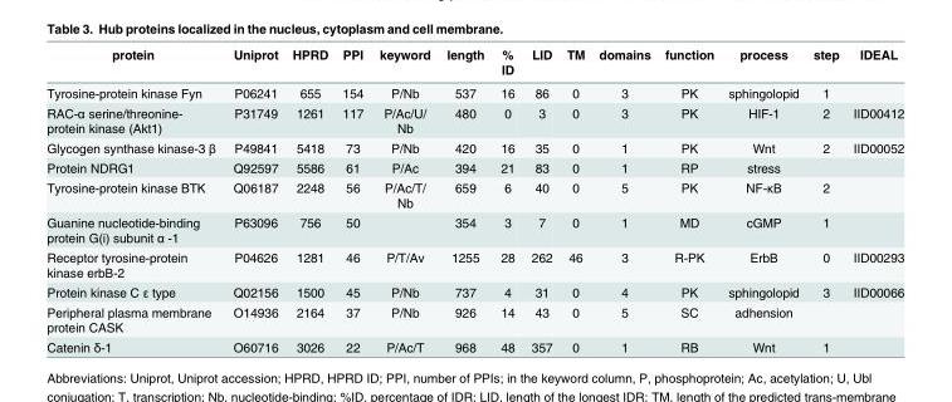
<table><thead><tr><td>protein</td><td>Uniprot</td><td>HPRD</td><td>PPI</td><td>keyword</td><td>length</td><td>% ID</td><td>LID</td><td>TM</td><td>domains</td><td>function</td><td>process</td><td>step</td><td>IDEAL</td></tr></thead><tbody><tr><td>Tyrosine-protein kinase Fyn</td><td>P06241</td><td>655</td><td>154</td><td>P/Nb</td><td>537</td><td>16</td><td>86</td><td>0</td><td>3</td><td>PK</td><td>sphingolopid</td><td>1</td><td></td></tr><tr><td>RAC-α serine/threonine- protein kinase (Akt1)</td><td>P31749</td><td>1261</td><td>117</td><td>P/Ac/U/ Nb</td><td>480</td><td>0</td><td>3</td><td>0</td><td>3</td><td>PK</td><td>HIF-1</td><td>2</td><td>IID00412</td></tr><tr><td>Glycogen synthase kinase-3 β</td><td>P49841</td><td>5418</td><td>73</td><td>P/Nb</td><td>420</td><td>16</td><td>35</td><td>0</td><td>1</td><td>PK</td><td>Wnt</td><td>2</td><td>IID00052</td></tr><tr><td>Protein NDRG1</td><td>Q92597</td><td>5586</td><td>61</td><td>P/Ac</td><td>394</td><td>21</td><td>83</td><td>0</td><td>1</td><td>RP</td><td>stress</td><td></td><td></td></tr><tr><td>Tyrosine-protein kinase BTK</td><td>Q06187</td><td>2248</td><td>56</td><td>P/Ac/T/ Nb</td><td>659</td><td>6</td><td>40</td><td>0</td><td>5</td><td>PK</td><td>NF-κΒ</td><td>2</td><td></td></tr><tr><td>Guanine nucleotide-binding protein G(i) subunit α -1</td><td>P63096</td><td>756</td><td>50</td><td></td><td>354</td><td>3</td><td>7</td><td>0</td><td>1</td><td>MD</td><td>cGMP</td><td>1</td><td></td></tr><tr><td>Receptor tyrosine-protein kinase erbΒ-2</td><td>P04626</td><td>1281</td><td>46</td><td>P/T/Av</td><td>1255</td><td>28</td><td>262</td><td>46</td><td>3</td><td>R-PK</td><td>ErbΒ</td><td>0</td><td>IID00293</td></tr><tr><td>Protein kinase C ε type</td><td>Q02156</td><td>1500</td><td>45</td><td>P/Nb</td><td>737</td><td>4</td><td>31</td><td>0</td><td>4</td><td>PK</td><td>sphingolopid</td><td>3</td><td>IID00066</td></tr><tr><td>Peripheral plasma membrane protein CASK</td><td>O14936</td><td>2164</td><td>37</td><td>P/Nb</td><td>926</td><td>14</td><td>43</td><td>0</td><td>5</td><td>SC</td><td>adhension</td><td></td><td></td></tr><tr><td>Catenin δ-1</td><td>O60716</td><td>3026</td><td>22</td><td>P/Ac/T</td><td>968</td><td>48</td><td>357</td><td>0</td><td>1</td><td>RB</td><td>Wnt</td><td>1</td><td></td></tr></tbody></table>